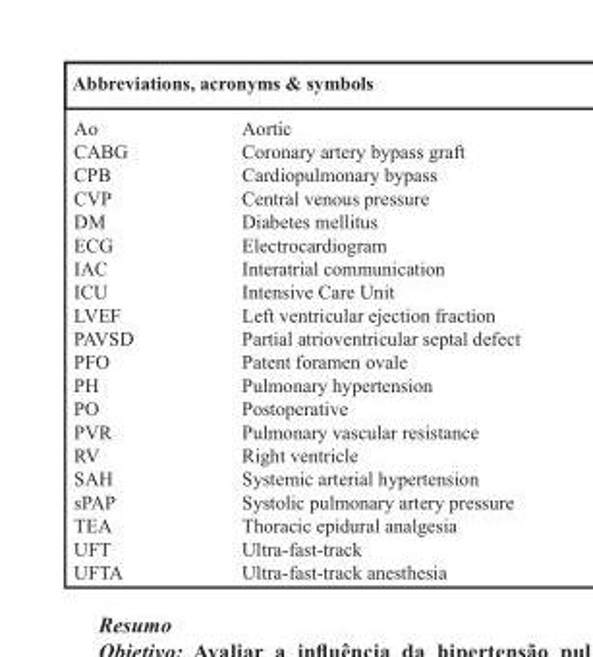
<table><thead><tr><td colspan="2">Abbreviations, acronyms &amp; symbols</td></tr><tr><td>Ao</td><td>Aortic</td></tr></thead><tbody><tr><td>CABG</td><td>Coronary artery bypass graft</td></tr><tr><td>CPB</td><td>Cardiopulmonary bypass</td></tr><tr><td>CVP</td><td>Central venous pressure</td></tr><tr><td>DM</td><td>Diabetes mellitus</td></tr><tr><td>ECG</td><td>Electrocardiogram</td></tr><tr><td>IAC</td><td>Interatrial communication</td></tr><tr><td>ICU</td><td>Intensive Care Unit</td></tr><tr><td>LVEF</td><td>Left ventricular ejection fraction</td></tr><tr><td>PAVSD</td><td>Partial atrioventricular septal defect</td></tr><tr><td>PFO</td><td>Patent foramen ovale</td></tr><tr><td>PH</td><td>Pulmonary hypertension</td></tr><tr><td>PO</td><td>Postoperative</td></tr><tr><td>PVR</td><td>Pulmonary vascular resistance</td></tr><tr><td>RV</td><td>Right ventricle</td></tr><tr><td>SAH</td><td>Systemic arterial hypertension</td></tr><tr><td>sPAP</td><td>Systolic pulmonary artery pressure</td></tr><tr><td>TEA</td><td>Thoracic epidural analgesia</td></tr><tr><td>UFT</td><td>Ultra-fast-track</td></tr><tr><td>UFTA</td><td>Ultra-fast-track anesthesia</td></tr></tbody></table>